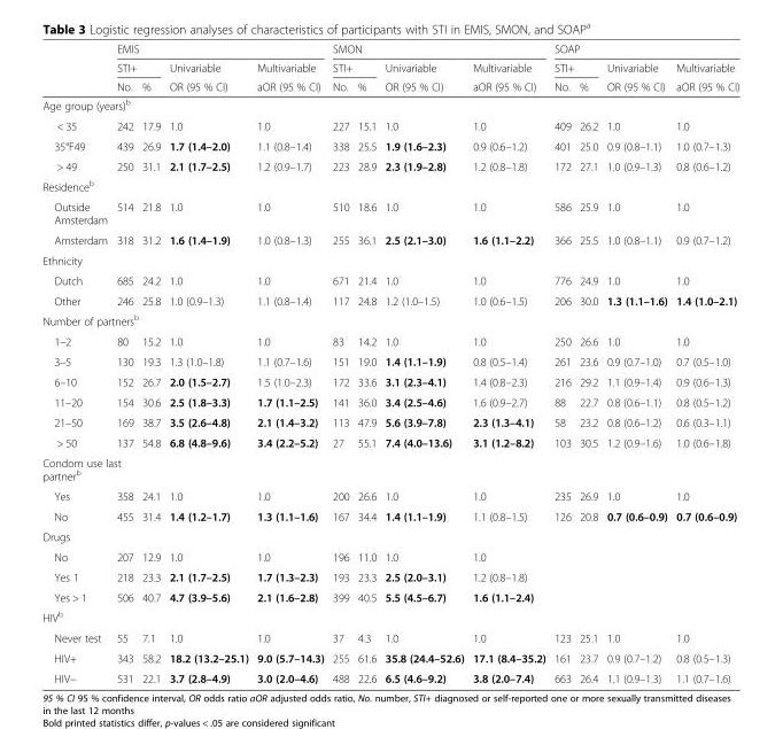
<table><thead><tr><td rowspan="3"></td><td colspan="4">EMIS</td><td colspan="4">SMON</td><td colspan="4">SOAP</td></tr><tr><td colspan="2">STI+</td><td rowspan="2">Univariable OR (95 % CI)</td><td rowspan="2">Multivariable aOR (95 % CI)</td><td colspan="2">STI+</td><td rowspan="2">Univariable OR (95 % CI)</td><td rowspan="2">Multivariable aOR (95 % CI)</td><td colspan="2">STI+</td><td rowspan="2">Univariable OR (95 % CI)</td><td rowspan="2">Multivariable aOR (95 % CI)</td></tr><tr><td>No.</td><td>%</td><td>No.</td><td>%</td><td>No.</td><td>%</td></tr></thead><tbody><tr><td colspan="13">Age group (years)<sup>b</sup></td></tr><tr><td>&lt; 35</td><td>242</td><td>17.9</td><td>1.0</td><td>1.0</td><td>227</td><td>15.1</td><td>1.0</td><td>1.0</td><td>409</td><td>26.2</td><td>1.0</td><td>1.0</td></tr><tr><td>35°F49</td><td>439</td><td>26.9</td><td>1.7 (1.4–2.0)</td><td>1.1 (0.8–1.4)</td><td>338</td><td>25.5</td><td>1.9 (1.6–2.3)</td><td>0.9 (0.6–1.2)</td><td>401</td><td>25.0</td><td>0.9 (0.8–1.1)</td><td>1.0 (0.7–1.3)</td></tr><tr><td>&gt; 49</td><td>250</td><td>31.1</td><td>2.1 (1.7–2.5)</td><td>1.2 (0.9–1.7)</td><td>223</td><td>28.9</td><td>2.3 (1.9–2.8)</td><td>1.2 (0.8–1.8)</td><td>172</td><td>27.1</td><td>1.0 (0.9–1.3)</td><td>0.8 (0.6–1.2)</td></tr><tr><td colspan="13">Residence<sup>b</sup></td></tr><tr><td>Outside Amsterdam</td><td>514</td><td>21.8</td><td>1.0</td><td>1.0</td><td>510</td><td>18.6</td><td>1.0</td><td>1.0</td><td>586</td><td>25.9</td><td>1.0</td><td>1.0</td></tr><tr><td>Amsterdam</td><td>318</td><td>31.2</td><td>1.6 (1.4–1.9)</td><td>1.0 (0.8–1.3)</td><td>255</td><td>36.1</td><td>2.5 (2.1–3.0)</td><td>1.6 (1.1–2.2)</td><td>366</td><td>25.5</td><td>1.0 (0.8–1.1)</td><td>0.9 (0.7–1.2)</td></tr><tr><td colspan="13">Ethnicity</td></tr><tr><td>Dutch</td><td>685</td><td>24.2</td><td>1.0</td><td>1.0</td><td>671</td><td>21.4</td><td>1.0</td><td>1.0</td><td>776</td><td>24.9</td><td>1.0</td><td>1.0</td></tr><tr><td>Other</td><td>246</td><td>25.8</td><td>1.0 (0.9–1.3)</td><td>1.1 (0.8–1.4)</td><td>117</td><td>24.8</td><td>1.2 (1.0–1.5)</td><td>1.0 (0.6–1.5)</td><td>206</td><td>30.0</td><td>1.3 (1.1–1.6)</td><td>1.4 (1.0–2.1)</td></tr><tr><td colspan="13">Number of partners<sup>b</sup></td></tr><tr><td>1–2</td><td>80</td><td>15.2</td><td>1.0</td><td>1.0</td><td>83</td><td>14.2</td><td>1.0</td><td>1.0</td><td>250</td><td>26.6</td><td>1.0</td><td>1.0</td></tr><tr><td>3–5</td><td>130</td><td>19.3</td><td>1.3 (1.0–1.8)</td><td>1.1 (0.7–1.6)</td><td>151</td><td>19.0</td><td>1.4 (1.1–1.9)</td><td>0.8 (0.5–1.4)</td><td>261</td><td>23.6</td><td>0.9 (0.7–1.0)</td><td>0.7 (0.5–1.0)</td></tr><tr><td>6–10</td><td>152</td><td>26.7</td><td>2.0 (1.5–2.7)</td><td>1.5 (1.0–2.3)</td><td>172</td><td>33.6</td><td>3.1 (2.3–4.1)</td><td>1.4 (0.8–2.3)</td><td>216</td><td>29.2</td><td>1.1 (0.9–1.4)</td><td>0.9 (0.6–1.3)</td></tr><tr><td>11–20</td><td>154</td><td>30.6</td><td>2.5 (1.8–3.3)</td><td>1.7 (1.1–2.5)</td><td>141</td><td>36.0</td><td>3.4 (2.5–4.6)</td><td>1.6 (0.9–2.7)</td><td>88</td><td>22.7</td><td>0.8 (0.6–1.1)</td><td>0.8 (0.5–1.2)</td></tr><tr><td>21–50</td><td>169</td><td>38.7</td><td>3.5 (2.6–4.8)</td><td>2.1 (1.4–3.2)</td><td>113</td><td>47.9</td><td>5.6 (3.9–7.8)</td><td>2.3 (1.3–4.1)</td><td>58</td><td>23.2</td><td>0.8 (0.6–1.2)</td><td>0.6 (0.3–1.1)</td></tr><tr><td>&gt; 50</td><td>137</td><td>54.8</td><td>6.8 (4.8–9.6)</td><td>3.4 (2.2–5.2)</td><td>27</td><td>55.1</td><td>7.4 (4.0–13.6)</td><td>3.1 (1.2–8.2)</td><td>103</td><td>30.5</td><td>1.2 (0.9–1.6)</td><td>1.0 (0.6–1.8)</td></tr><tr><td colspan="13">Condom use last partner<sup>b</sup></td></tr><tr><td>Yes</td><td>358</td><td>24.1</td><td>1.0</td><td>1.0</td><td>200</td><td>26.6</td><td>1.0</td><td>1.0</td><td>235</td><td>26.9</td><td>1.0</td><td>1.0</td></tr><tr><td>No</td><td>455</td><td>31.4</td><td>1.4 (1.2–1.7)</td><td>1.3 (1.1–1.6)</td><td>167</td><td>34.4</td><td>1.4 (1.1–1.9)</td><td>1.1 (0.8–1.5)</td><td>126</td><td>20.8</td><td>0.7 (0.6–0.9)</td><td>0.7 (0.6–0.9)</td></tr><tr><td colspan="13">Drugs</td></tr><tr><td>No</td><td>207</td><td>12.9</td><td>1.0</td><td>1.0</td><td>196</td><td>11.0</td><td>1.0</td><td>1.0</td><td></td><td></td><td></td><td></td></tr><tr><td>Yes 1</td><td>218</td><td>23.3</td><td>2.1 (1.7–2.5)</td><td>1.7 (1.3–2.3)</td><td>193</td><td>23.3</td><td>2.5 (2.0–3.1)</td><td>1.2 (0.8–1.8)</td><td></td><td></td><td></td><td></td></tr><tr><td>Yes &gt; 1</td><td>506</td><td>40.7</td><td>4.7 (3.9–5.6)</td><td>2.1 (1.6–2.8)</td><td>399</td><td>40.5</td><td>5.5 (4.5–6.7)</td><td>1.6 (1.1–2.4)</td><td></td><td></td><td></td><td></td></tr><tr><td colspan="13">HIV<sup>b</sup></td></tr><tr><td>Never test</td><td>55</td><td>7.1</td><td>1.0</td><td>1.0</td><td>37</td><td>4.3</td><td>1.0</td><td>1.0</td><td>123</td><td>25.1</td><td>1.0</td><td>1.0</td></tr><tr><td>HIV+</td><td>343</td><td>58.2</td><td>18.2 (13.2–25.1)</td><td>9.0 (5.7–14.3)</td><td>255</td><td>61.6</td><td>35.8 (24.4–52.6)</td><td>17.1 (8.4–35.2)</td><td>161</td><td>23.7</td><td>0.9 (0.7–1.2)</td><td>0.8 (0.5–1.3)</td></tr><tr><td>HIV−</td><td>531</td><td>22.1</td><td>3.7 (2.8–4.9)</td><td>3.0 (2.0–4.6)</td><td>488</td><td>22.6</td><td>6.5 (4.6–9.2)</td><td>3.8 (2.0–7.4)</td><td>663</td><td>26.4</td><td>1.1 (0.9–1.3)</td><td>1.1 (0.7–1.6)</td></tr></tbody></table>